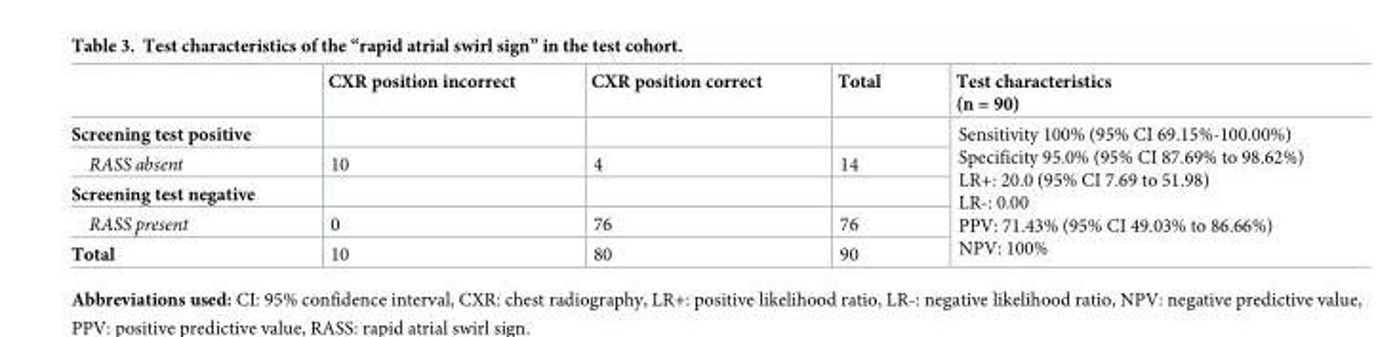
<table><thead><tr><td></td><td>CXR position incorrect</td><td>CXR position correct</td><td>Total</td><td>Test characteristics (n = 90)</td></tr></thead><tbody><tr><td colspan="4">Screening test positive</td><td rowspan="5">Sensitivity 100% (95% CI 69.15%-100.00%) Specificity 95.0% (95% CI 87.69% to 98.62%) LR+: 20.0 (95% CI 7.69 to 51.98) LR-: 0.00 PPV: 71.43% (95% CI 49.03% to 86.66%) NPV: 100%</td></tr><tr><td>RASS absent</td><td>10</td><td>4</td><td>14</td></tr><tr><td colspan="4">Screening test negative</td></tr><tr><td>RASS present</td><td>0</td><td>76</td><td>76</td></tr><tr><td>Total</td><td>10</td><td>80</td><td>90</td></tr></tbody></table>